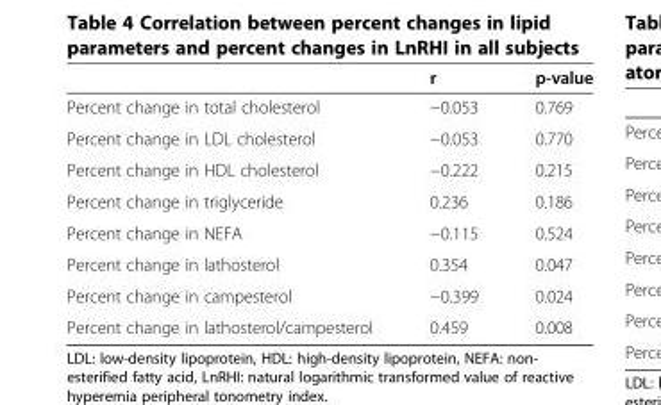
<table><thead><tr><td></td><td>r</td><td>p-value</td></tr></thead><tbody><tr><td>Percent change in total cholesterol</td><td>−0.053</td><td>0.769</td></tr><tr><td>Percent change in LDL cholesterol</td><td>−0.053</td><td>0.770</td></tr><tr><td>Percent change in HDL cholesterol</td><td>−0.222</td><td>0.215</td></tr><tr><td>Percent change in triglyceride</td><td>0.236</td><td>0.186</td></tr><tr><td>Percent change in NEFA</td><td>−0.115</td><td>0.524</td></tr><tr><td>Percent change in lathosterol</td><td>0.354</td><td>0.047</td></tr><tr><td>Percent change in campesterol</td><td>−0.399</td><td>0.024</td></tr><tr><td>Percent change in lathosterol/campesterol</td><td>0.459</td><td>0.008</td></tr></tbody></table>